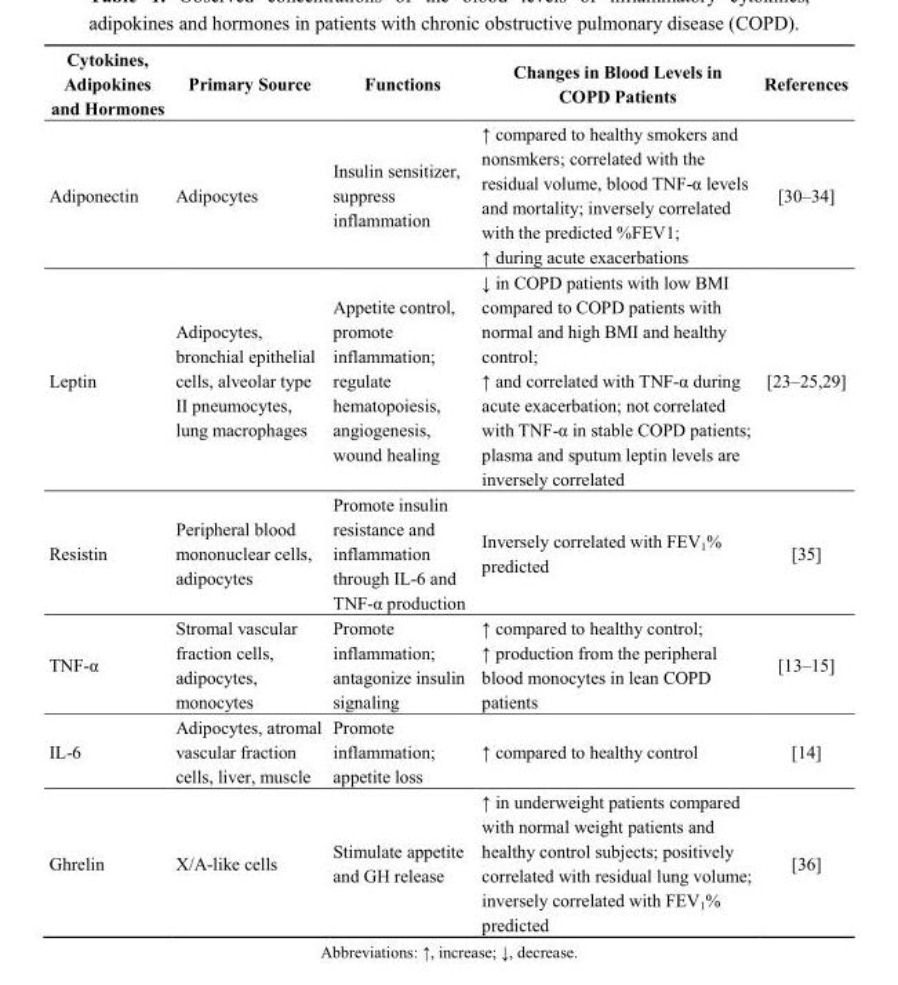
<table><thead><tr><td>Cytokines, Adipokines and Hormones</td><td>Primary Source</td><td>Functions</td><td>Changes in Blood Levels in COPD Patients</td><td>References</td></tr></thead><tbody><tr><td>Adiponectin</td><td>Adipocytes</td><td>Insulin sensitizer, suppress inflammation</td><td>↑ compared to healthy smokers and nonsmkers; correlated with the residual volume, blood TNF-α levels and mortality; inversely correlated with the predicted %FEV1; ↑ during acute exacerbations</td><td>[30–34]</td></tr><tr><td>Leptin</td><td>Adipocytes, bronchial epithelial cells, alveolar type II pneumocytes, lung macrophages</td><td>Appetite control, promote inflammation; regulate hematopoiesis, angiogenesis, wound healing</td><td>↓ in COPD patients with low BMI compared to COPD patients with normal and high BMI and healthy control; ↑ and correlated with TNF-α during acute exacerbation; not correlated with TNF-α in stable COPD patients; plasma and sputum leptin levels are inversely correlated</td><td>[23–25,29]</td></tr><tr><td>Resistin</td><td>Peripheral blood mononuclear cells, adipocytes</td><td>Promote insulin resistance and inflammation through IL-6 and TNF-α production</td><td>Inversely correlated with FEV<sub>1</sub>% predicted</td><td>[35]</td></tr><tr><td>TNF-α</td><td>Stromal vascular fraction cells, adipocytes, monocytes</td><td>Promote inflammation; antagonize insulin signaling</td><td>↑ compared to healthy control; ↑ production from the peripheral blood monocytes in lean COPD patients</td><td>[13–15]</td></tr><tr><td>IL-6</td><td>Adipocytes, atromal vascular fraction cells, liver, muscle</td><td>Promote inflammation; appetite loss</td><td>↑ compared to healthy control</td><td>[14]</td></tr><tr><td>Ghrelin</td><td>X/A-like cells</td><td>Stimulate appetite and GH release</td><td>↑ in underweight patients compared with normal weight patients and healthy control subjects; positively correlated with residual lung volume; inversely correlated with FEV<sub>1</sub>% predicted</td><td>[36]</td></tr></tbody></table>